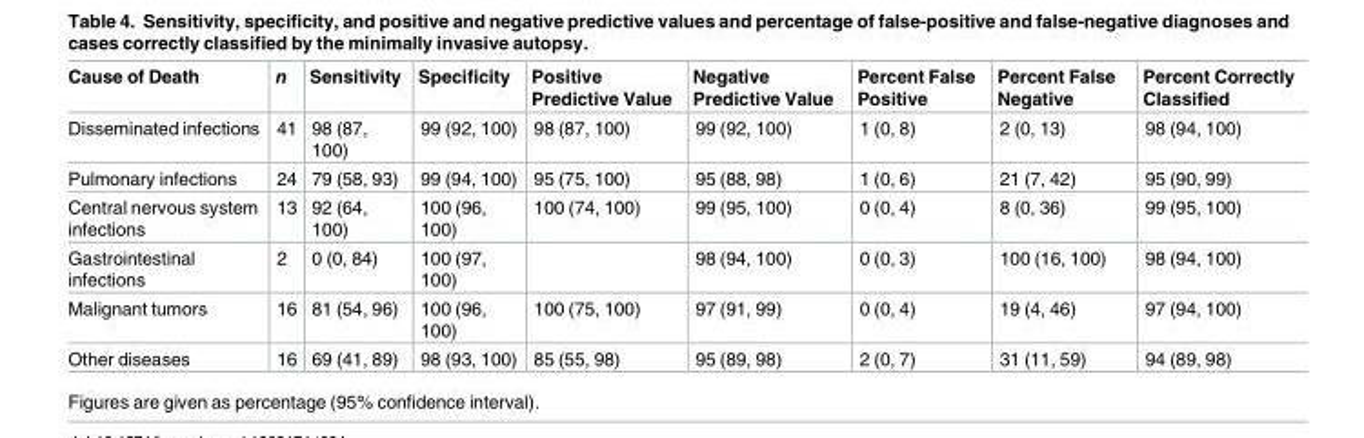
<table><thead><tr><td>Cause of Death</td><td>n</td><td>Sensitivity</td><td>Specificity</td><td>Positive Predictive Value</td><td>Negative Predictive Value</td><td>Percent False Positive</td><td>Percent False Negative</td><td>Percent Correctly Classified</td></tr></thead><tbody><tr><td>Disseminated infections</td><td>41</td><td>98 (87, 100)</td><td>99 (92, 100)</td><td>98 (87, 100)</td><td>99 (92, 100)</td><td>1 (0, 8)</td><td>2 (0, 13)</td><td>98 (94, 100)</td></tr><tr><td>Pulmonary infections</td><td>24</td><td>79 (58, 93)</td><td>99 (94, 100)</td><td>95 (75, 100)</td><td>95 (88, 98)</td><td>1 (0, 6)</td><td>21 (7, 42)</td><td>95 (90, 99)</td></tr><tr><td>Central nervous system infections</td><td>13</td><td>92 (64, 100)</td><td>100 (96, 100)</td><td>100 (74, 100)</td><td>99 (95, 100)</td><td>0 (0, 4)</td><td>8 (0, 36)</td><td>99 (95, 100)</td></tr><tr><td>Gastrointestinal infections</td><td>2</td><td>0 (0, 84)</td><td>100 (97, 100)</td><td></td><td>98 (94, 100)</td><td>0 (0, 3)</td><td>100 (16, 100)</td><td>98 (94, 100)</td></tr><tr><td>Malignant tumors</td><td>16</td><td>81 (54, 96)</td><td>100 (96, 100)</td><td>100 (75, 100)</td><td>97 (91, 99)</td><td>0 (0, 4)</td><td>19 (4, 46)</td><td>97 (94, 100)</td></tr><tr><td>Other diseases</td><td>16</td><td>69 (41, 89)</td><td>98 (93, 100)</td><td>85 (55, 98)</td><td>95 (89, 98)</td><td>2 (0, 7)</td><td>31 (11, 59)</td><td>94 (89, 98)</td></tr></tbody></table>